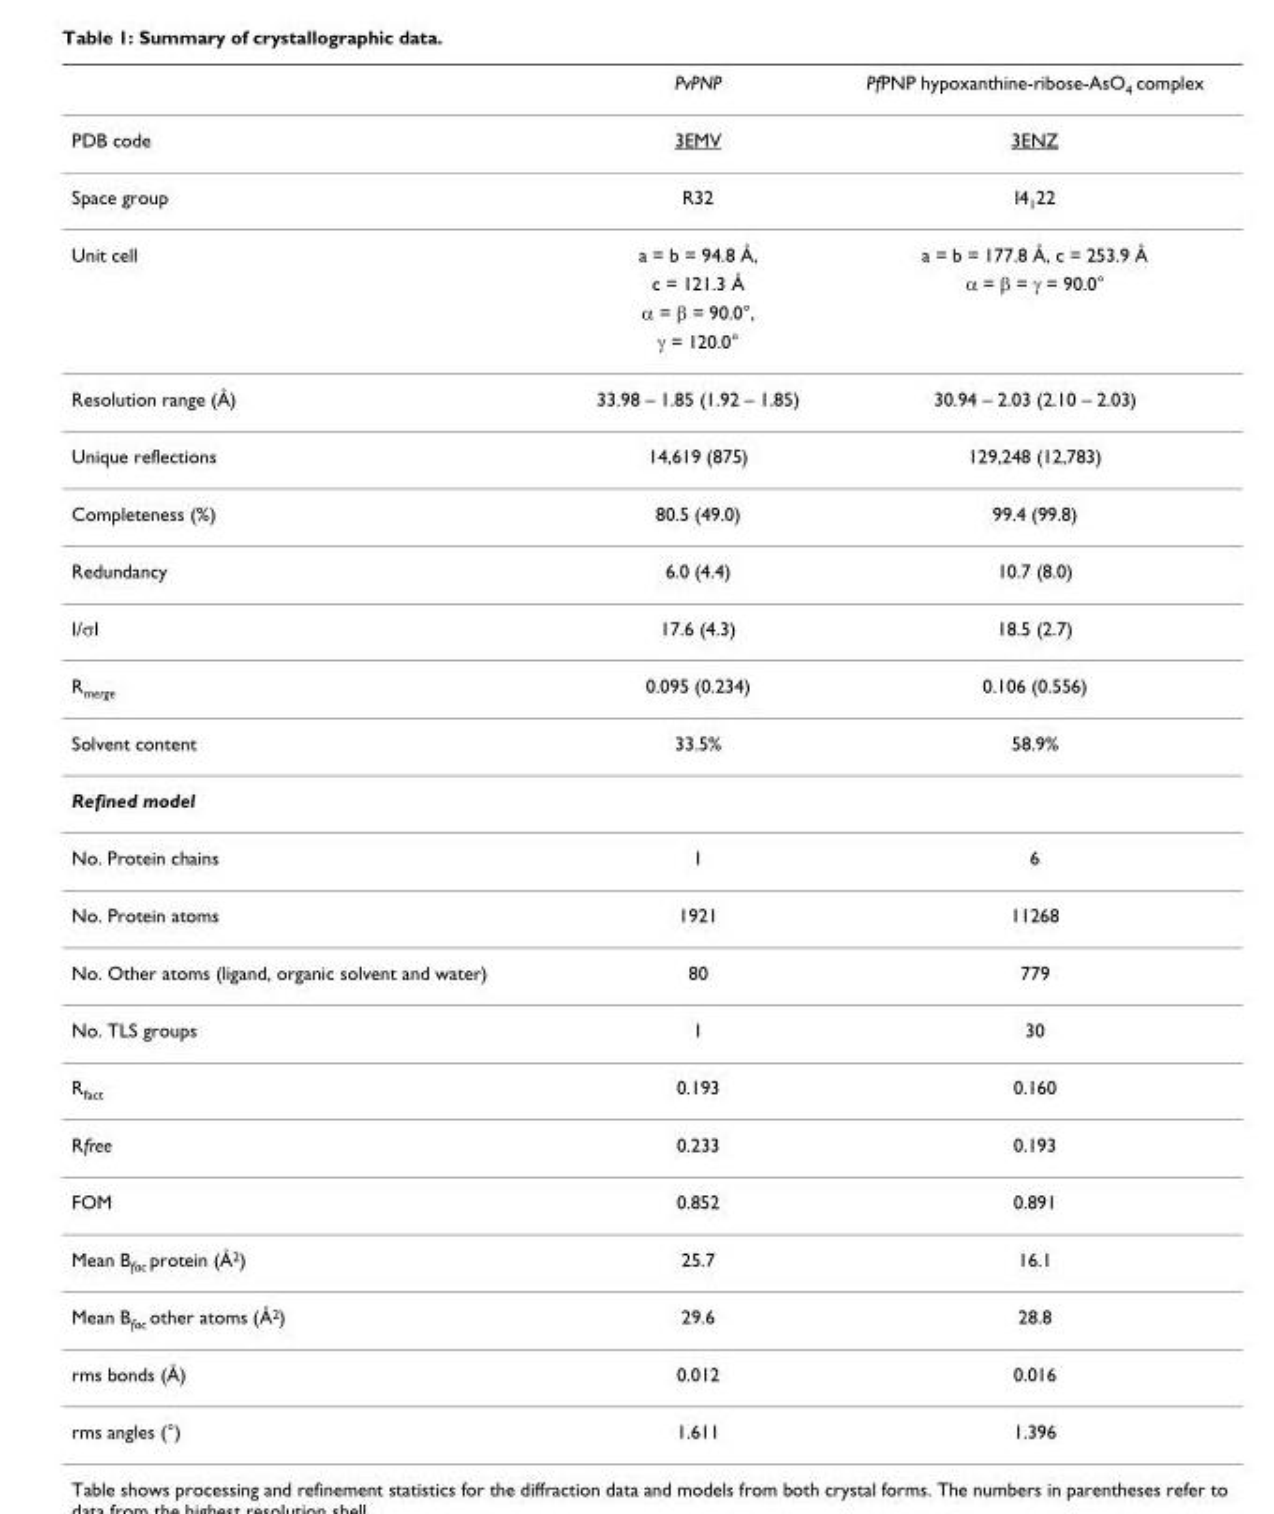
<table><thead><tr><td></td><td>PvPNP</td><td>PfPNP hypoxanthine-ribose-AsO<sub>4</sub> complex</td></tr></thead><tbody><tr><td>PDB code</td><td>3EMV</td><td>3ENZ</td></tr><tr><td>Space group</td><td>R32</td><td>I4<sub>1</sub>22</td></tr><tr><td rowspan="4">Unit cell</td><td>a = b = 94.8 Å,</td><td>a = b = 177.8 Å, c = 253.9 Å</td></tr><tr><td>c = 121.3 Å</td><td>α = β = γ = 90.0°</td></tr><tr><td>α = β = 90.0°,</td><td></td></tr><tr><td>γ = 120.0°</td><td></td></tr><tr><td>Resolution range (Å)</td><td>33.98 – 1.85 (1.92 – 1.85)</td><td>30.94 – 2.03 (2.10 – 2.03)</td></tr><tr><td>Unique reflections</td><td>14,619 (875)</td><td>129,248 (12,783)</td></tr><tr><td>Completeness (%)</td><td>80.5 (49.0)</td><td>99.4 (99.8)</td></tr><tr><td>Redundancy</td><td>6.0 (4.4)</td><td>10.7 (8.0)</td></tr><tr><td>I/σI</td><td>17.6 (4.3)</td><td>18.5 (2.7)</td></tr><tr><td>R<sub>merge</sub></td><td>0.095 (0.234)</td><td>0.106 (0.556)</td></tr><tr><td>Solvent content</td><td>33.5%</td><td>58.9%</td></tr><tr><td colspan="3">Refined model</td></tr><tr><td>No. Protein chains</td><td>1</td><td>6</td></tr><tr><td>No. Protein atoms</td><td>1921</td><td>11268</td></tr><tr><td>No. Other atoms (ligand, organic solvent and water)</td><td>80</td><td>779</td></tr><tr><td>No. TLS groups</td><td>1</td><td>30</td></tr><tr><td>R<sub>fact</sub></td><td>0.193</td><td>0.160</td></tr><tr><td>Rfree</td><td>0.233</td><td>0.193</td></tr><tr><td>FOM</td><td>0.852</td><td>0.891</td></tr><tr><td>Mean B<sub>fac</sub> protein (Å<sup>2</sup>)</td><td>25.7</td><td>16.1</td></tr><tr><td>Mean B<sub>fac</sub> other atoms (Å<sup>2</sup>)</td><td>29.6</td><td>28.8</td></tr><tr><td>rms bonds (Å)</td><td>0.012</td><td>0.016</td></tr><tr><td>rms angles (°)</td><td>1.611</td><td>1.396</td></tr></tbody></table>